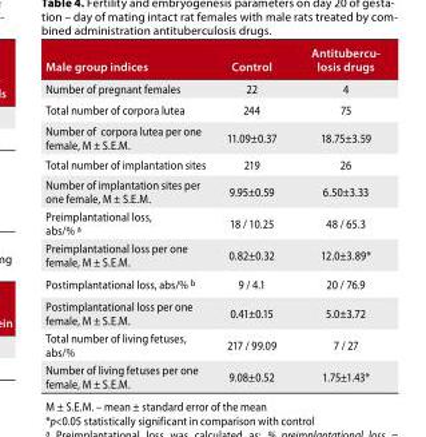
<table><thead><tr><td>Male group indices</td><td>Control</td><td>Antitubercu- losis drugs</td></tr></thead><tbody><tr><td>Number of pregnant females</td><td>22</td><td>4</td></tr><tr><td>Total number of corpora lutea</td><td>244</td><td>75</td></tr><tr><td>Number of corpora lutea per one female, M ± S.E.M.</td><td>11.09±0.37</td><td>18.75±3.59</td></tr><tr><td>Total number of implantation sites</td><td>219</td><td>26</td></tr><tr><td>Number of implantation sites per one female, M ± S.E.M.</td><td>9.95±0.59</td><td>6.50±3.33</td></tr><tr><td>Preimplantational loss, abs/% a</td><td>18 / 10.25</td><td>48 / 65.3</td></tr><tr><td>Preimplantational loss per one female, M ± S.E.M.</td><td>0.82±0.32</td><td>12.0±3.89*</td></tr><tr><td>Postimplantational loss, abs/% b</td><td>9 / 4.1</td><td>20 / 76.9</td></tr><tr><td>Postimplantational loss per one female, M ± S.E.M.</td><td>0.41±0.15</td><td>5.0±3.72</td></tr><tr><td>Total number of living fetuses, abs/%</td><td>217 / 99.09</td><td>7 / 27</td></tr><tr><td>Number of living fetuses per one female, M ± S.E.M.</td><td>9.08±0.52</td><td>1.75±1.43*</td></tr></tbody></table>